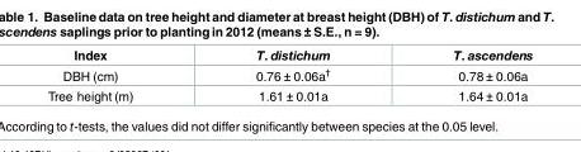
<table><thead><tr><td>Index</td><td>T. distichum</td><td>T. ascendens</td></tr></thead><tbody><tr><td>DBH (cm)</td><td>0.76 ± 0.06a<sup>†</sup></td><td>0.78 ± 0.06a</td></tr><tr><td>Tree height (m)</td><td>1.61 ± 0.01a</td><td>1.64 ± 0.01a</td></tr></tbody></table>